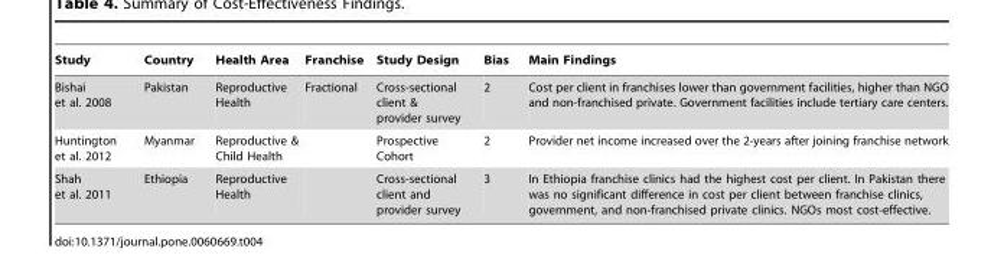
<table><thead><tr><td>Study</td><td>Country</td><td>Health Area</td><td>Franchise</td><td>Study Design</td><td>Bias</td><td>Main Findings</td></tr></thead><tbody><tr><td>Bishai et al. 2008</td><td>Pakistan</td><td>Reproductive Health</td><td>Fractional</td><td>Cross-sectional client &amp; provider survey</td><td>2</td><td>Cost per client in franchises lower than government facilities, higher than NGO and non-franchised private. Government facilities include tertiary care centers.</td></tr><tr><td>Huntington et al. 2012</td><td>Myanmar</td><td>Reproductive &amp; Child Health</td><td></td><td>Prospective Cohort</td><td>2</td><td>Provider net income increased over the 2-years after joining franchise network</td></tr><tr><td>Shah et al. 2011</td><td>Ethiopia</td><td>Reproductive Health</td><td></td><td>Cross-sectional client and provider survey</td><td>3</td><td>In Ethiopia franchise clinics had the highest cost per client. In Pakistan there was no significant difference in cost per client between franchise clinics, government, and non-franchised private clinics. NGOs most cost-effective.</td></tr></tbody></table>